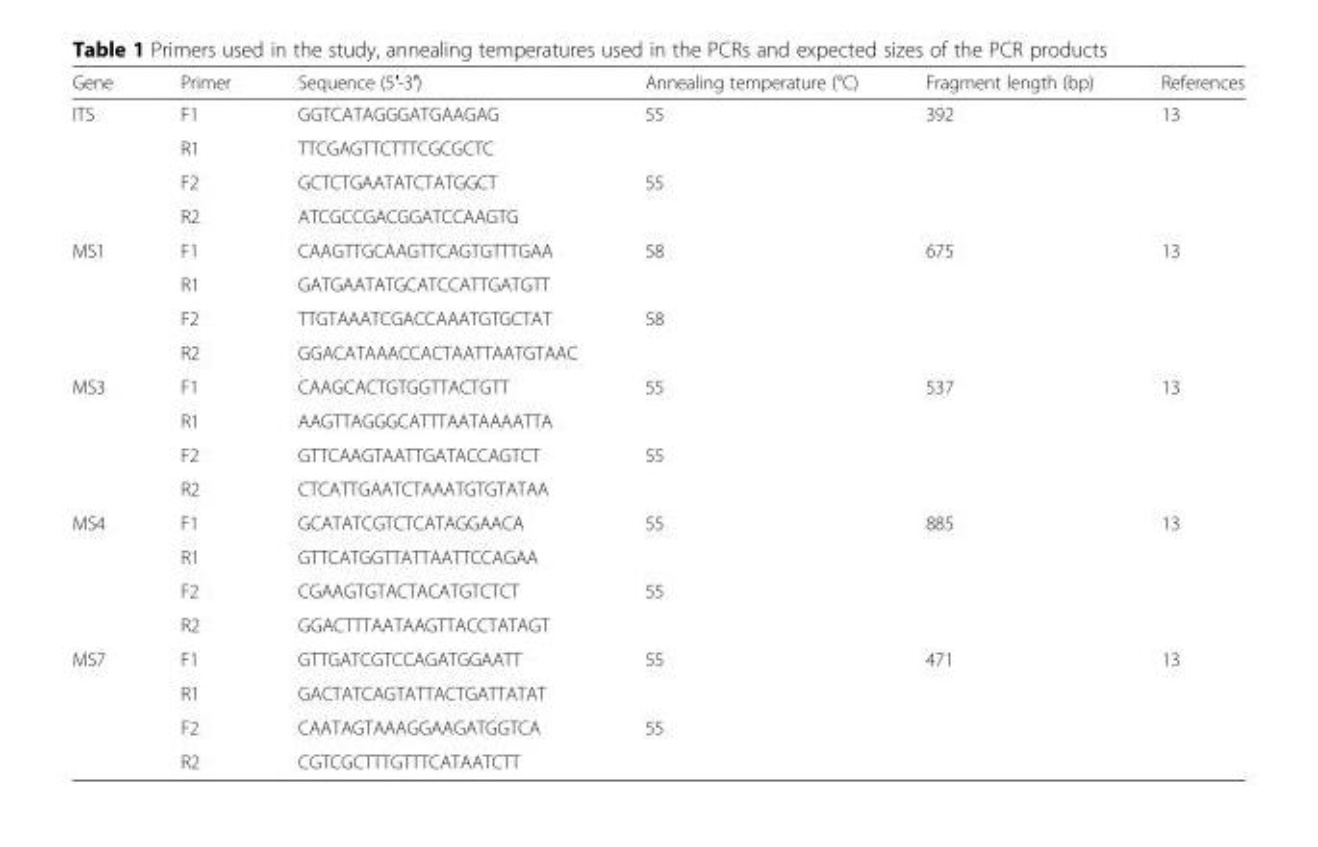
<table><thead><tr><td>Gene</td><td>Primer</td><td>Sequence (5′-3′)</td><td>Annealing temperature (°C)</td><td>Fragment length (bp)</td><td>References</td></tr></thead><tbody><tr><td rowspan="4">ITS</td><td>F1</td><td>GGTCATAGGGATGAAGAG</td><td rowspan="2">55</td><td rowspan="4">392</td><td rowspan="4">13</td></tr><tr><td>R1</td><td>TTCGAGTTCTTTCGCGCTC</td></tr><tr><td>F2</td><td>GCTCTGAATATCTATGGCT</td><td rowspan="2">55</td></tr><tr><td>R2</td><td>ATCGCCGACGGATCCAAGTG</td></tr><tr><td rowspan="4">MS1</td><td>F1</td><td>CAAGTTGCAAGTTCAGTGTTTGAA</td><td rowspan="2">58</td><td rowspan="4">675</td><td rowspan="4">13</td></tr><tr><td>R1</td><td>GATGAATATGCATCCATTGATGTT</td></tr><tr><td>F2</td><td>TTGTAAATCGACCAAATGTGCTAT</td><td rowspan="2">58</td></tr><tr><td>R2</td><td>GGACATAAACCACTAATTAATGTAAC</td></tr><tr><td rowspan="4">MS3</td><td>F1</td><td>CAAGCACTGTGGTTACTGTT</td><td rowspan="2">55</td><td rowspan="4">537</td><td rowspan="4">13</td></tr><tr><td>R1</td><td>AAGTTAGGGCATTTAATAAAATTA</td></tr><tr><td>F2</td><td>GTTCAAGTAATTGATACCAGTCT</td><td rowspan="2">55</td></tr><tr><td>R2</td><td>CTCATTGAATCTAAATGTGTATAA</td></tr><tr><td rowspan="4">MS4</td><td>F1</td><td>GCATATCGTCTCATAGGAACA</td><td rowspan="2">55</td><td rowspan="4">885</td><td rowspan="4">13</td></tr><tr><td>R1</td><td>GTTCATGGTTATTAATTCCAGAA</td></tr><tr><td>F2</td><td>CGAAGTGTACTACATGTCTCT</td><td rowspan="2">55</td></tr><tr><td>R2</td><td>GGACTTTAATAAGTTACCTATAGT</td></tr><tr><td rowspan="4">MS7</td><td>F1</td><td>GTTGATCGTCCAGATGGAATT</td><td rowspan="2">55</td><td rowspan="4">471</td><td rowspan="4">13</td></tr><tr><td>R1</td><td>GACTATCAGTATTACTGATTATAT</td></tr><tr><td>F2</td><td>CAATAGTAAAGGAAGATGGTCA</td><td rowspan="2">55</td></tr><tr><td>R2</td><td>CGTCGCTTTGTTTCATAATCTT</td></tr></tbody></table>